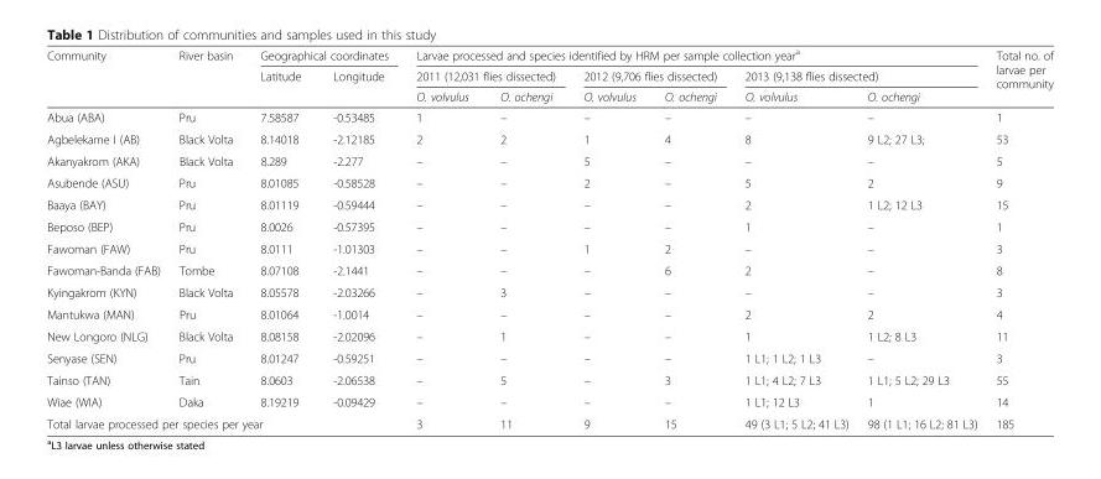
<table><thead><tr><td rowspan="3">Community</td><td rowspan="3">River basin</td><td colspan="2">Geographical coordinates</td><td colspan="6">Larvae processed and species identified by HRM per sample collection year<sup>a</sup></td><td rowspan="3">Total no. of larvae per community</td></tr><tr><td rowspan="2">Latitude</td><td rowspan="2">Longitude</td><td colspan="2">2011 (12,031 flies dissected)</td><td colspan="2">2012 (9,706 flies dissected)</td><td colspan="2">2013 (9,138 flies dissected)</td></tr><tr><td>O. volvulus</td><td>O. ochengi</td><td>O. volvulus</td><td>O. ochengi</td><td>O. volvulus</td><td>O. ochengi</td></tr></thead><tbody><tr><td>Abua (ABA)</td><td>Pru</td><td>7.58587</td><td>-0.53485</td><td>1</td><td>–</td><td>–</td><td>–</td><td>–</td><td>–</td><td>1</td></tr><tr><td>Agbelekame I (AB)</td><td>Black Volta</td><td>8.14018</td><td>-2.12185</td><td>2</td><td>2</td><td>1</td><td>4</td><td>8</td><td>9 L2; 27 L3;</td><td>53</td></tr><tr><td>Akanyakrom (AKA)</td><td>Black Volta</td><td>8.289</td><td>-2.277</td><td>–</td><td>–</td><td>5</td><td>–</td><td>–</td><td>–</td><td>5</td></tr><tr><td>Asubende (ASU)</td><td>Pru</td><td>8.01085</td><td>-0.58528</td><td>–</td><td>–</td><td>2</td><td>–</td><td>5</td><td>2</td><td>9</td></tr><tr><td>Baaya (BAY)</td><td>Pru</td><td>8.01119</td><td>-0.59444</td><td>–</td><td>–</td><td>–</td><td>–</td><td>2</td><td>1 L2; 12 L3</td><td>15</td></tr><tr><td>Beposo (BEP)</td><td>Pru</td><td>8.0026</td><td>-0.57395</td><td>–</td><td>–</td><td>–</td><td>–</td><td>1</td><td>–</td><td>1</td></tr><tr><td>Fawoman (FAW)</td><td>Pru</td><td>8.0111</td><td>-1.01303</td><td>–</td><td>–</td><td>1</td><td>2</td><td>–</td><td>–</td><td>3</td></tr><tr><td>Fawoman-Banda (FAB)</td><td>Tombe</td><td>8.07108</td><td>-2.1441</td><td>–</td><td>–</td><td>–</td><td>6</td><td>2</td><td>–</td><td>8</td></tr><tr><td>Kyingakrom (KYN)</td><td>Black Volta</td><td>8.05578</td><td>-2.03266</td><td>–</td><td>3</td><td>–</td><td>–</td><td>–</td><td>–</td><td>3</td></tr><tr><td>Mantukwa (MAN)</td><td>Pru</td><td>8.01064</td><td>-1.0014</td><td>–</td><td>–</td><td>–</td><td>–</td><td>2</td><td>2</td><td>4</td></tr><tr><td>New Longoro (NLG)</td><td>Black Volta</td><td>8.08158</td><td>-2.02096</td><td>–</td><td>1</td><td>–</td><td>–</td><td>1</td><td>1 L2; 8 L3</td><td>11</td></tr><tr><td>Senyase (SEN)</td><td>Pru</td><td>8.01247</td><td>-0.59251</td><td>–</td><td>–</td><td>–</td><td>–</td><td>1 L1; 1 L2; 1 L3</td><td>–</td><td>3</td></tr><tr><td>Tainso (TAN)</td><td>Tain</td><td>8.0603</td><td>-2.06538</td><td>–</td><td>5</td><td>–</td><td>3</td><td>1 L1; 4 L2; 7 L3</td><td>1 L1; 5 L2; 29 L3</td><td>55</td></tr><tr><td>Wiae (WIA)</td><td>Daka</td><td>8.19219</td><td>-0.09429</td><td>–</td><td>–</td><td>–</td><td>–</td><td>1 L1; 12 L3</td><td>1</td><td>14</td></tr><tr><td colspan="4">Total larvae processed per species per year</td><td>3</td><td>11</td><td>9</td><td>15</td><td>49 (3 L1; 5 L2; 41 L3)</td><td>98 (1 L1; 16 L2; 81 L3)</td><td>185</td></tr></tbody></table>